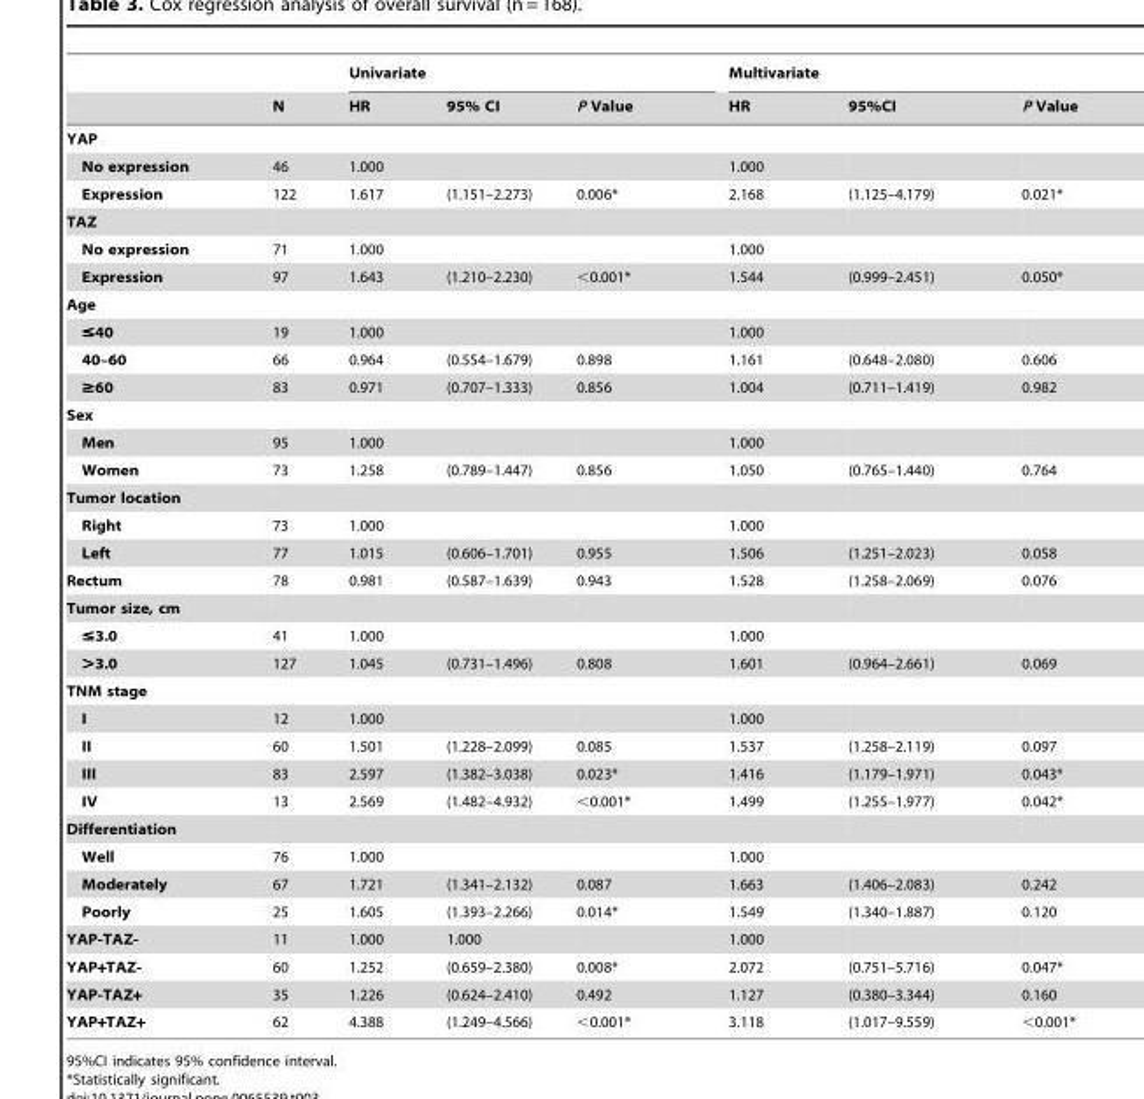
<table><thead><tr><td rowspan="2"></td><td rowspan="2">N</td><td colspan="3">Univariate</td><td colspan="3">Multivariate</td></tr><tr><td>HR</td><td>95% CI</td><td>P Value</td><td>HR</td><td>95%CI</td><td>P Value</td></tr></thead><tbody><tr><td colspan="8">YAP</td></tr><tr><td>No expression</td><td>46</td><td>1.000</td><td></td><td></td><td>1.000</td><td></td><td></td></tr><tr><td>Expression</td><td>122</td><td>1.617</td><td>(1.151–2.273)</td><td>0.006*</td><td>2.168</td><td>(1.125–4.179)</td><td>0.021*</td></tr><tr><td colspan="8">TAZ</td></tr><tr><td>No expression</td><td>71</td><td>1.000</td><td></td><td></td><td>1.000</td><td></td><td></td></tr><tr><td>Expression</td><td>97</td><td>1.643</td><td>(1.210–2.230)</td><td>&lt;0.001*</td><td>1.544</td><td>(0.999–2.451)</td><td>0.050*</td></tr><tr><td colspan="8">Age</td></tr><tr><td>≤40</td><td>19</td><td>1.000</td><td></td><td></td><td>1.000</td><td></td><td></td></tr><tr><td>40–60</td><td>66</td><td>0.964</td><td>(0.554–1.679)</td><td>0.898</td><td>1.161</td><td>(0.648–2.080)</td><td>0.606</td></tr><tr><td>≥60</td><td>83</td><td>0.971</td><td>(0.707–1.333)</td><td>0.856</td><td>1.004</td><td>(0.711–1.419)</td><td>0.982</td></tr><tr><td colspan="8">Sex</td></tr><tr><td>Men</td><td>95</td><td>1.000</td><td></td><td></td><td>1.000</td><td></td><td></td></tr><tr><td>Women</td><td>73</td><td>1.258</td><td>(0.789–1.447)</td><td>0.856</td><td>1.050</td><td>(0.765–1.440)</td><td>0.764</td></tr><tr><td colspan="8">Tumor location</td></tr><tr><td>Right</td><td>73</td><td>1.000</td><td></td><td></td><td>1.000</td><td></td><td></td></tr><tr><td>Left</td><td>77</td><td>1.015</td><td>(0.606–1.701)</td><td>0.955</td><td>1.506</td><td>(1.251–2.023)</td><td>0.058</td></tr><tr><td>Rectum</td><td>78</td><td>0.981</td><td>(0.587–1.639)</td><td>0.943</td><td>1.528</td><td>(1.258–2.069)</td><td>0.076</td></tr><tr><td colspan="8">Tumor size, cm</td></tr><tr><td>≤3.0</td><td>41</td><td>1.000</td><td></td><td></td><td>1.000</td><td></td><td></td></tr><tr><td>&gt;3.0</td><td>127</td><td>1.045</td><td>(0.731–1.496)</td><td>0.808</td><td>1.601</td><td>(0.964–2.661)</td><td>0.069</td></tr><tr><td colspan="8">TNM stage</td></tr><tr><td>I</td><td>12</td><td>1.000</td><td></td><td></td><td>1.000</td><td></td><td></td></tr><tr><td>II</td><td>60</td><td>1.501</td><td>(1.228–2.099)</td><td>0.085</td><td>1.537</td><td>(1.258–2.119)</td><td>0.097</td></tr><tr><td>III</td><td>83</td><td>2.597</td><td>(1.382–3.038)</td><td>0.023*</td><td>1.416</td><td>(1.179–1.971)</td><td>0.043*</td></tr><tr><td>IV</td><td>13</td><td>2.569</td><td>(1.482–4.932)</td><td>&lt;0.001*</td><td>1.499</td><td>(1.255–1.977)</td><td>0.042*</td></tr><tr><td colspan="8">Differentiation</td></tr><tr><td>Well</td><td>76</td><td>1.000</td><td></td><td></td><td>1.000</td><td></td><td></td></tr><tr><td>Moderately</td><td>67</td><td>1.721</td><td>(1.341–2.132)</td><td>0.087</td><td>1.663</td><td>(1.406–2.083)</td><td>0.242</td></tr><tr><td>Poorly</td><td>25</td><td>1.605</td><td>(1.393–2.266)</td><td>0.014*</td><td>1.549</td><td>(1.340–1.887)</td><td>0.120</td></tr><tr><td>YAP-TAZ-</td><td>11</td><td>1.000</td><td>1.000</td><td></td><td>1.000</td><td></td><td></td></tr><tr><td>YAP+TAZ-</td><td>60</td><td>1.252</td><td>(0.659–2.380)</td><td>0.008*</td><td>2.072</td><td>(0.751–5.716)</td><td>0.047*</td></tr><tr><td>YAP-TAZ+</td><td>35</td><td>1.226</td><td>(0.624–2.410)</td><td>0.492</td><td>1.127</td><td>(0.380–3.344)</td><td>0.160</td></tr><tr><td>YAP+TAZ+</td><td>62</td><td>4.388</td><td>(1.249–4.566)</td><td>&lt;0.001*</td><td>3.118</td><td>(1.017–9.559)</td><td>&lt;0.001*</td></tr></tbody></table>